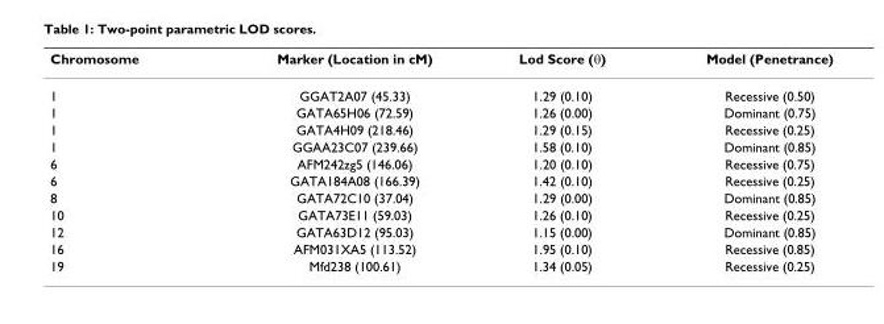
<table><thead><tr><td>Chromosome</td><td>Marker (Location in cM)</td><td>Lod Score (θ)</td><td>Model (Penetrance)</td></tr></thead><tbody><tr><td>1</td><td>GGAT2A07 (45.33)</td><td>1.29 (0.10)</td><td>Recessive (0.50)</td></tr><tr><td>1</td><td>GATA65H06 (72.59)</td><td>1.26 (0.00)</td><td>Dominant (0.75)</td></tr><tr><td>1</td><td>GATA4H09 (218.46)</td><td>1.29 (0.15)</td><td>Recessive (0.25)</td></tr><tr><td>1</td><td>GGAA23C07 (239.66)</td><td>1.58 (0.10)</td><td>Dominant (0.85)</td></tr><tr><td>6</td><td>AFM242zg5 (146.06)</td><td>1.20 (0.10)</td><td>Recessive (0.75)</td></tr><tr><td>6</td><td>GATA184A08 (166.39)</td><td>1.42 (0.10)</td><td>Recessive (0.25)</td></tr><tr><td>8</td><td>GATA72C10 (37.04)</td><td>1.29 (0.00)</td><td>Dominant (0.85)</td></tr><tr><td>10</td><td>GATA73E11 (59.03)</td><td>1.26 (0.10)</td><td>Recessive (0.25)</td></tr><tr><td>12</td><td>GATA63D12 (95.03)</td><td>1.15 (0.00)</td><td>Dominant (0.85)</td></tr><tr><td>16</td><td>AFM031XA5 (113.52)</td><td>1.95 (0.10)</td><td>Recessive (0.85)</td></tr><tr><td>19</td><td>Mfd238 (100.61)</td><td>1.34 (0.05)</td><td>Recessive (0.25)</td></tr></tbody></table>